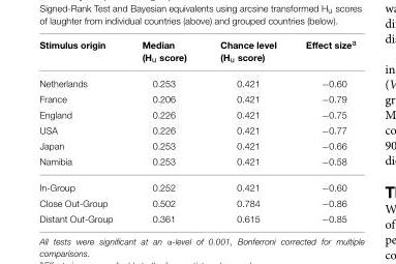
<table><thead><tr><td>Stimulus origin</td><td>Median (H<sub>u</sub> score)</td><td>Chance level (H<sub>u</sub> score)</td><td>Effect size<sup>a</sup></td></tr></thead><tbody><tr><td>Netherlands</td><td>0.253</td><td>0.421</td><td>−0.60</td></tr><tr><td>France</td><td>0.206</td><td>0.421</td><td>−0.79</td></tr><tr><td>England</td><td>0.226</td><td>0.421</td><td>−0.75</td></tr><tr><td>USA</td><td>0.226</td><td>0.421</td><td>−0.77</td></tr><tr><td>Japan</td><td>0.253</td><td>0.421</td><td>−0.66</td></tr><tr><td>Namibia</td><td>0.253</td><td>0.421</td><td>−0.58</td></tr><tr><td>In-Group</td><td>0.252</td><td>0.421</td><td>−0.60</td></tr><tr><td>Close Out-Group</td><td>0.502</td><td>0.784</td><td>−0.86</td></tr><tr><td>Distant Out-Group</td><td>0.361</td><td>0.615</td><td>−0.85</td></tr></tbody></table>